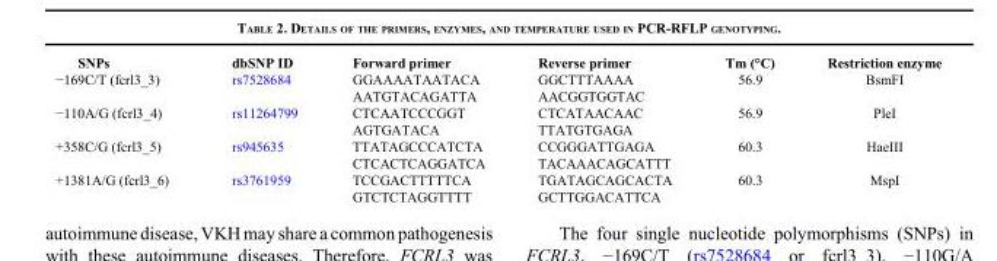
<table><thead><tr><td>SNPs</td><td>dbSNP ID</td><td>Forward primer</td><td>Reverse primer</td><td>Tm (°C)</td><td>Restriction enzyme</td></tr></thead><tbody><tr><td rowspan="2">−169C/T (fcrl3_3)</td><td>rs7528684</td><td>GGAAAATAATACA</td><td>GGCTTTAAAA</td><td>56.9</td><td>BsmFI</td></tr><tr><td></td><td>AATGTACAGATTA</td><td>AACGGTGGTAC</td><td></td><td></td></tr><tr><td rowspan="2">−110A/G (fcrl3_4)</td><td>rs11264799</td><td>CTCAATCCCGGT</td><td>CTCATAACAAC</td><td>56.9</td><td>PleI</td></tr><tr><td></td><td>AGTGATACA</td><td>TTATGTGAGA</td><td></td><td></td></tr><tr><td rowspan="2">+358C/G (fcrl3_5)</td><td>rs945635</td><td>TTATAGCCCATCTA</td><td>CCGGGATTGAGA</td><td>60.3</td><td>HaeIII</td></tr><tr><td></td><td>CTCACTCAGGATCA</td><td>TACAAACAGCATTT</td><td></td><td></td></tr><tr><td rowspan="2">+1381A/G (fcrl3_6)</td><td>rs3761959</td><td>TCCGACTTTTTCA</td><td>TGATAGCAGCACTA</td><td>60.3</td><td>MspI</td></tr><tr><td></td><td>GTCTCTAGGTTTT</td><td>GCTTGGACATTCA</td><td></td><td></td></tr></tbody></table>